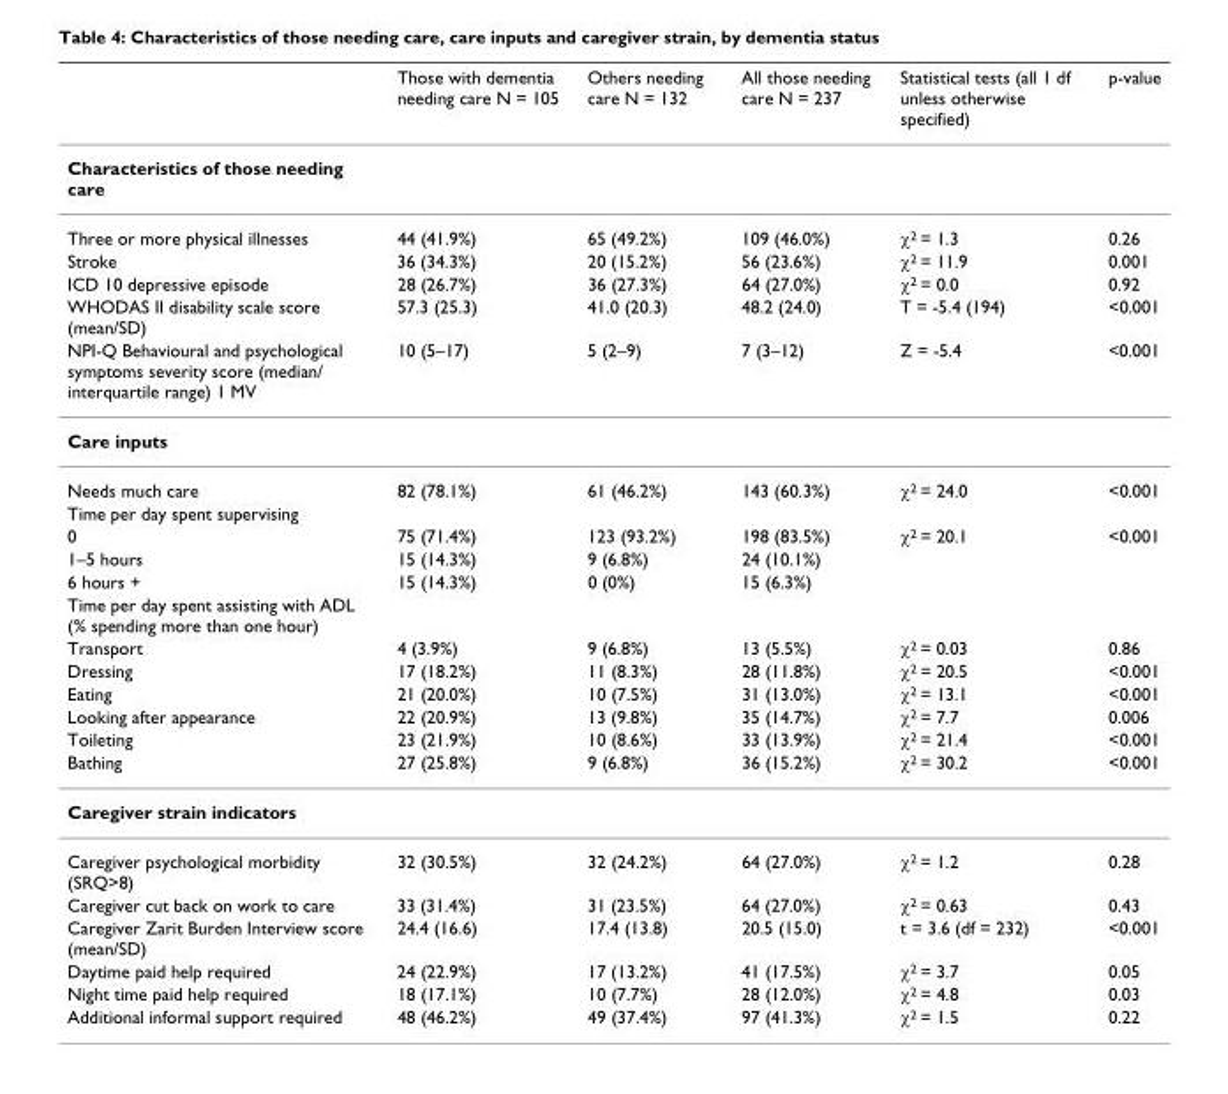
<table><thead><tr><td></td><td>Those with dementia needing care N = 105</td><td>Others needing care N = 132</td><td>All those needing care N = 237</td><td>Statistical tests (all 1 df unless otherwise specified)</td><td>p-value</td></tr></thead><tbody><tr><td colspan="6">Characteristics of those needing care</td></tr><tr><td>Three or more physical illnesses</td><td>44 (41.9%)</td><td>65 (49.2%)</td><td>109 (46.0%)</td><td>χ<sup>2</sup> = 1.3</td><td>0.26</td></tr><tr><td>Stroke</td><td>36 (34.3%)</td><td>20 (15.2%)</td><td>56 (23.6%)</td><td>χ<sup>2</sup> = 11.9</td><td>0.001</td></tr><tr><td>ICD 10 depressive episode</td><td>28 (26.7%)</td><td>36 (27.3%)</td><td>64 (27.0%)</td><td>χ<sup>2</sup> = 0.0</td><td>0.92</td></tr><tr><td>WHODAS II disability scale score (mean/SD)</td><td>57.3 (25.3)</td><td>41.0 (20.3)</td><td>48.2 (24.0)</td><td>T = -5.4 (194)</td><td>&lt;0.001</td></tr><tr><td>NPI-Q Behavioural and psychological symptoms severity score (median/ interquartile range) 1 MV</td><td>10 (5–17)</td><td>5 (2–9)</td><td>7 (3–12)</td><td>Z = -5.4</td><td>&lt;0.001</td></tr><tr><td colspan="6">Care inputs</td></tr><tr><td>Needs much care</td><td>82 (78.1%)</td><td>61 (46.2%)</td><td>143 (60.3%)</td><td>χ<sup>2</sup> = 24.0</td><td>&lt;0.001</td></tr><tr><td colspan="6">Time per day spent supervising</td></tr><tr><td>0</td><td>75 (71.4%)</td><td>123 (93.2%)</td><td>198 (83.5%)</td><td>χ<sup>2</sup> = 20.1</td><td>&lt;0.001</td></tr><tr><td>1–5 hours</td><td>15 (14.3%)</td><td>9 (6.8%)</td><td>24 (10.1%)</td><td></td><td></td></tr><tr><td>6 hours +</td><td>15 (14.3%)</td><td>0 (0%)</td><td>15 (6.3%)</td><td></td><td></td></tr><tr><td colspan="6">Time per day spent assisting with ADL (% spending more than one hour)</td></tr><tr><td>Transport</td><td>4 (3.9%)</td><td>9 (6.8%)</td><td>13 (5.5%)</td><td>χ<sup>2</sup> = 0.03</td><td>0.86</td></tr><tr><td>Dressing</td><td>17 (18.2%)</td><td>11 (8.3%)</td><td>28 (11.8%)</td><td>χ<sup>2</sup> = 20.5</td><td>&lt;0.001</td></tr><tr><td>Eating</td><td>21 (20.0%)</td><td>10 (7.5%)</td><td>31 (13.0%)</td><td>χ<sup>2</sup> = 13.1</td><td>&lt;0.001</td></tr><tr><td>Looking after appearance</td><td>22 (20.9%)</td><td>13 (9.8%)</td><td>35 (14.7%)</td><td>χ<sup>2</sup> = 7.7</td><td>0.006</td></tr><tr><td>Toileting</td><td>23 (21.9%)</td><td>10 (8.6%)</td><td>33 (13.9%)</td><td>χ<sup>2</sup> = 21.4</td><td>&lt;0.001</td></tr><tr><td>Bathing</td><td>27 (25.8%)</td><td>9 (6.8%)</td><td>36 (15.2%)</td><td>χ<sup>2</sup> = 30.2</td><td>&lt;0.001</td></tr><tr><td colspan="6">Caregiver strain indicators</td></tr><tr><td>Caregiver psychological morbidity (SRQ&gt;8)</td><td>32 (30.5%)</td><td>32 (24.2%)</td><td>64 (27.0%)</td><td>χ<sup>2</sup> = 1.2</td><td>0.28</td></tr><tr><td>Caregiver cut back on work to care</td><td>33 (31.4%)</td><td>31 (23.5%)</td><td>64 (27.0%)</td><td>χ<sup>2</sup> = 0.63</td><td>0.43</td></tr><tr><td>Caregiver Zarit Burden Interview score (mean/SD)</td><td>24.4 (16.6)</td><td>17.4 (13.8)</td><td>20.5 (15.0)</td><td>t = 3.6 (df = 232)</td><td>&lt;0.001</td></tr><tr><td>Daytime paid help required</td><td>24 (22.9%)</td><td>17 (13.2%)</td><td>41 (17.5%)</td><td>χ<sup>2</sup> = 3.7</td><td>0.05</td></tr><tr><td>Night time paid help required</td><td>18 (17.1%)</td><td>10 (7.7%)</td><td>28 (12.0%)</td><td>χ<sup>2</sup> = 4.8</td><td>0.03</td></tr><tr><td>Additional informal support required</td><td>48 (46.2%)</td><td>49 (37.4%)</td><td>97 (41.3%)</td><td>χ<sup>2</sup> = 1.5</td><td>0.22</td></tr></tbody></table>